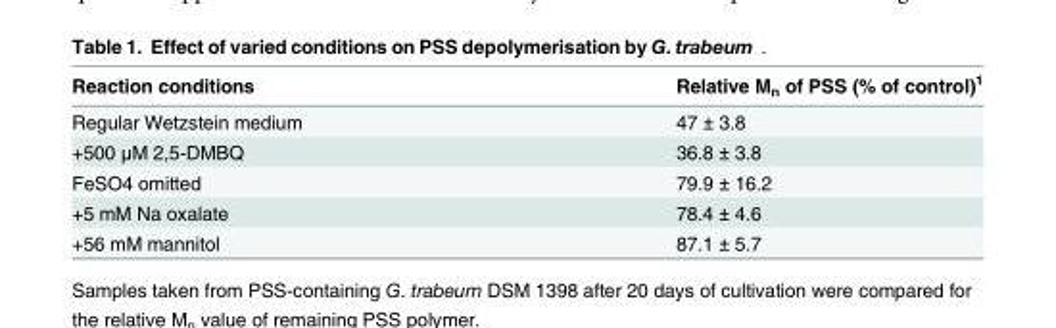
<table><thead><tr><td>Reaction conditions</td><td>Relative M<sub>n</sub> of PSS (% of control)<sup>1</sup></td></tr></thead><tbody><tr><td>Regular Wetzstein medium</td><td>47 ± 3.8</td></tr><tr><td>+500 μM 2,5-DMBQ</td><td>36.8 ± 3.8</td></tr><tr><td>FeSO4 omitted</td><td>79.9 ± 16.2</td></tr><tr><td>+5 mM Na oxalate</td><td>78.4 ± 4.6</td></tr><tr><td>+56 mM mannitol</td><td>87.1 ± 5.7</td></tr></tbody></table>